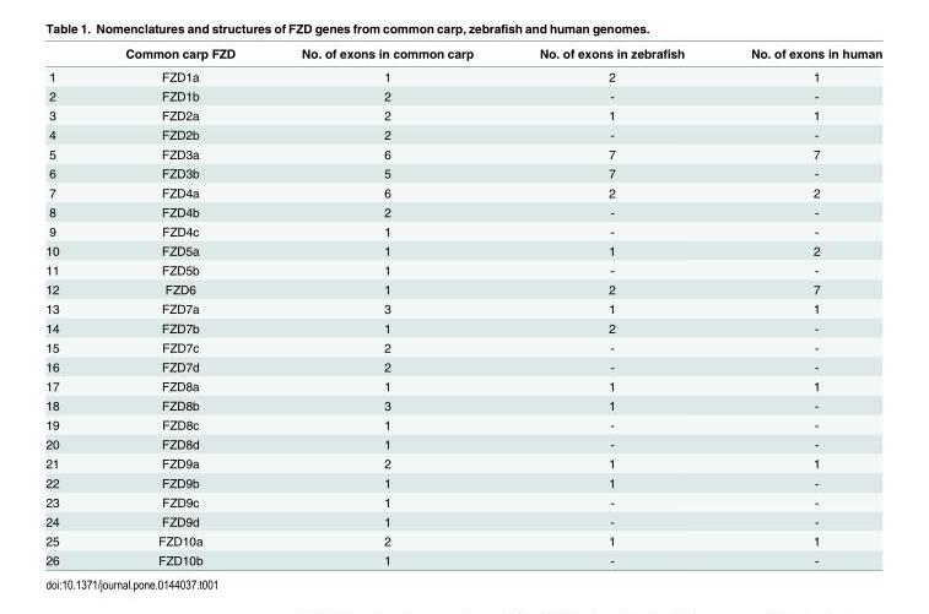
<table><thead><tr><td></td><td>Common carp FZD</td><td>No. of exons in common carp</td><td>No. of exons in zebrafish</td><td>No. of exons in human</td></tr></thead><tbody><tr><td>1</td><td>FZD1a</td><td>1</td><td>2</td><td>1</td></tr><tr><td>2</td><td>FZD1b</td><td>2</td><td>-</td><td>-</td></tr><tr><td>3</td><td>FZD2a</td><td>2</td><td>1</td><td>1</td></tr><tr><td>4</td><td>FZD2b</td><td>2</td><td>-</td><td>-</td></tr><tr><td>5</td><td>FZD3a</td><td>6</td><td>7</td><td>7</td></tr><tr><td>6</td><td>FZD3b</td><td>5</td><td>7</td><td>-</td></tr><tr><td>7</td><td>FZD4a</td><td>6</td><td>2</td><td>2</td></tr><tr><td>8</td><td>FZD4b</td><td>2</td><td>-</td><td>-</td></tr><tr><td>9</td><td>FZD4c</td><td>1</td><td>-</td><td>-</td></tr><tr><td>10</td><td>FZD5a</td><td>1</td><td>1</td><td>2</td></tr><tr><td>11</td><td>FZD5b</td><td>1</td><td>-</td><td>-</td></tr><tr><td>12</td><td>FZD6</td><td>1</td><td>2</td><td>7</td></tr><tr><td>13</td><td>FZD7a</td><td>3</td><td>1</td><td>1</td></tr><tr><td>14</td><td>FZD7b</td><td>1</td><td>2</td><td>-</td></tr><tr><td>15</td><td>FZD7c</td><td>2</td><td>-</td><td>-</td></tr><tr><td>16</td><td>FZD7d</td><td>2</td><td>-</td><td>-</td></tr><tr><td>17</td><td>FZD8a</td><td>1</td><td>1</td><td>1</td></tr><tr><td>18</td><td>FZD8b</td><td>3</td><td>1</td><td>-</td></tr><tr><td>19</td><td>FZD8c</td><td>1</td><td>-</td><td>-</td></tr><tr><td>20</td><td>FZD8d</td><td>1</td><td>-</td><td>-</td></tr><tr><td>21</td><td>FZD9a</td><td>2</td><td>1</td><td>1</td></tr><tr><td>22</td><td>FZD9b</td><td>1</td><td>1</td><td>-</td></tr><tr><td>23</td><td>FZD9c</td><td>1</td><td>-</td><td>-</td></tr><tr><td>24</td><td>FZD9d</td><td>1</td><td>-</td><td>-</td></tr><tr><td>25</td><td>FZD10a</td><td>2</td><td>1</td><td>1</td></tr><tr><td>26</td><td>FZD10b</td><td>1</td><td>-</td><td>-</td></tr></tbody></table>